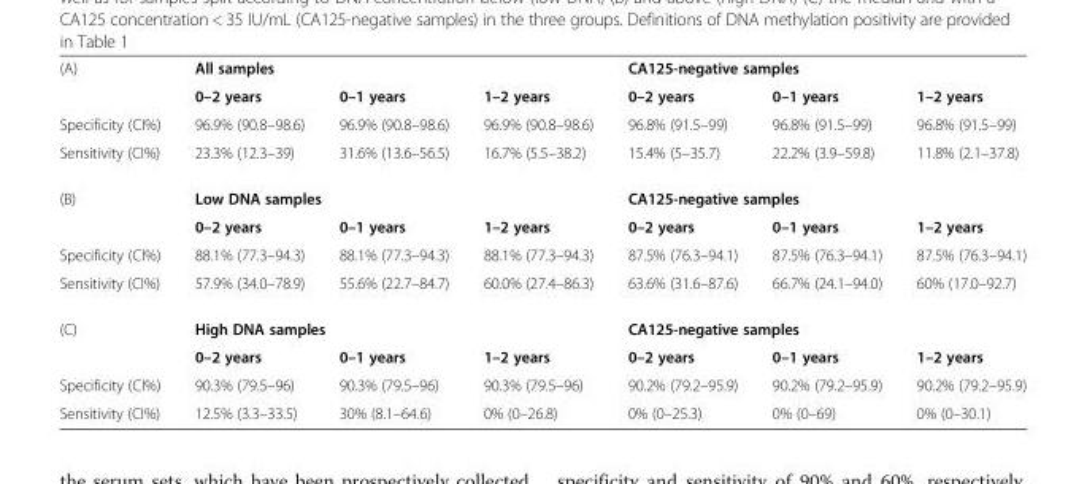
<table><tbody><tr><td rowspan="2">(A)</td><td colspan="3">All samples</td><td colspan="3">CA125-negative samples</td></tr><tr><td>0–2 years</td><td>0–1 years</td><td>1–2 years</td><td>0–2 years</td><td>0–1 years</td><td>1–2 years</td></tr><tr><td>Specificity (CI%)</td><td>96.9% (90.8–98.6)</td><td>96.9% (90.8–98.6)</td><td>96.9% (90.8–98.6)</td><td>96.8% (91.5–99)</td><td>96.8% (91.5–99)</td><td>96.8% (91.5–99)</td></tr><tr><td>Sensitivity (CI%)</td><td>23.3% (12.3–39)</td><td>31.6% (13.6–56.5)</td><td>16.7% (5.5–38.2)</td><td>15.4% (5–35.7)</td><td>22.2% (3.9–59.8)</td><td>11.8% (2.1–37.8)</td></tr><tr><td rowspan="2">(B)</td><td colspan="3">Low DNA samples</td><td colspan="3">CA125-negative samples</td></tr><tr><td>0–2 years</td><td>0–1 years</td><td>1–2 years</td><td>0–2 years</td><td>0–1 years</td><td>1–2 years</td></tr><tr><td>Specificity (CI%)</td><td>88.1% (77.3–94.3)</td><td>88.1% (77.3–94.3)</td><td>88.1% (77.3–94.3)</td><td>87.5% (76.3–94.1)</td><td>87.5% (76.3–94.1)</td><td>87.5% (76.3–94.1)</td></tr><tr><td>Sensitivity (CI%)</td><td>57.9% (34.0–78.9)</td><td>55.6% (22.7–84.7)</td><td>60.0% (27.4–86.3)</td><td>63.6% (31.6–87.6)</td><td>66.7% (24.1–94.0)</td><td>60% (17.0–92.7)</td></tr><tr><td rowspan="2">(C)</td><td colspan="3">High DNA samples</td><td colspan="3">CA125-negative samples</td></tr><tr><td>0–2 years</td><td>0–1 years</td><td>1–2 years</td><td>0–2 years</td><td>0–1 years</td><td>1–2 years</td></tr><tr><td>Specificity (CI%)</td><td>90.3% (79.5–96)</td><td>90.3% (79.5–96)</td><td>90.3% (79.5–96)</td><td>90.2% (79.2–95.9)</td><td>90.2% (79.2–95.9)</td><td>90.2% (79.2–95.9)</td></tr><tr><td>Sensitivity (CI%)</td><td>12.5% (3.3–33.5)</td><td>30% (8.1–64.6)</td><td>0% (0–26.8)</td><td>0% (0–25.3)</td><td>0% (0–69)</td><td>0% (0–30.1)</td></tr></tbody></table>